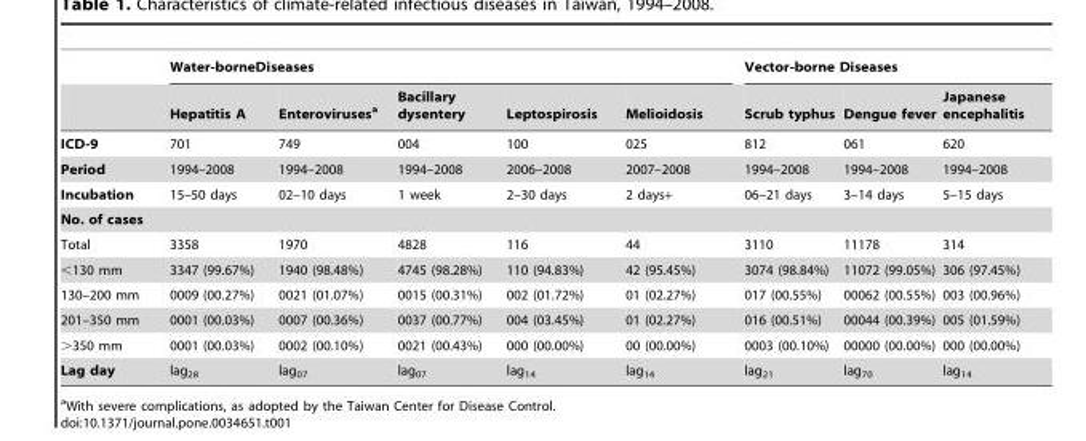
<table><thead><tr><td rowspan="2"></td><td colspan="5">Water-borneDiseases</td><td colspan="3">Vector-borne Diseases</td></tr><tr><td>Hepatitis A</td><td>Enteroviruses<sup>a</sup></td><td>Bacillary dysentery</td><td>Leptospirosis</td><td>Melioidosis</td><td>Scrub typhus</td><td>Dengue fever</td><td>Japanese encephalitis</td></tr></thead><tbody><tr><td>ICD-9</td><td>701</td><td>749</td><td>004</td><td>100</td><td>025</td><td>812</td><td>061</td><td>620</td></tr><tr><td>Period</td><td>1994–2008</td><td>1994–2008</td><td>1994–2008</td><td>2006–2008</td><td>2007–2008</td><td>1994–2008</td><td>1994–2008</td><td>1994–2008</td></tr><tr><td>Incubation</td><td>15–50 days</td><td>02–10 days</td><td>1 week</td><td>2–30 days</td><td>2 days+</td><td>06–21 days</td><td>3–14 days</td><td>5–15 days</td></tr><tr><td colspan="9">No. of cases</td></tr><tr><td>Total</td><td>3358</td><td>1970</td><td>4828</td><td>116</td><td>44</td><td>3110</td><td>11178</td><td>314</td></tr><tr><td>&lt;130 mm</td><td>3347 (99.67%)</td><td>1940 (98.48%)</td><td>4745 (98.28%)</td><td>110 (94.83%)</td><td>42 (95.45%)</td><td>3074 (98.84%)</td><td>11072 (99.05%)</td><td>306 (97.45%)</td></tr><tr><td>130–200 mm</td><td>0009 (00.27%)</td><td>0021 (01.07%)</td><td>0015 (00.31%)</td><td>002 (01.72%)</td><td>01 (02.27%)</td><td>017 (00.55%)</td><td>00062 (00.55%)</td><td>003 (00.96%)</td></tr><tr><td>201–350 mm</td><td>0001 (00.03%)</td><td>0007 (00.36%)</td><td>0037 (00.77%)</td><td>004 (03.45%)</td><td>01 (02.27%)</td><td>016 (00.51%)</td><td>00044 (00.39%)</td><td>005 (01.59%)</td></tr><tr><td>&gt;350 mm</td><td>0001 (00.03%)</td><td>0002 (00.10%)</td><td>0021 (00.43%)</td><td>000 (00.00%)</td><td>00 (00.00%)</td><td>0003 (00.10%)</td><td>00000 (00.00%)</td><td>000 (00.00%)</td></tr><tr><td>Lag day</td><td>lag<sub>28</sub></td><td>lag<sub>07</sub></td><td>lag<sub>07</sub></td><td>lag<sub>14</sub></td><td>lag<sub>14</sub></td><td>lag<sub>21</sub></td><td>lag<sub>70</sub></td><td>lag<sub>14</sub></td></tr></tbody></table>